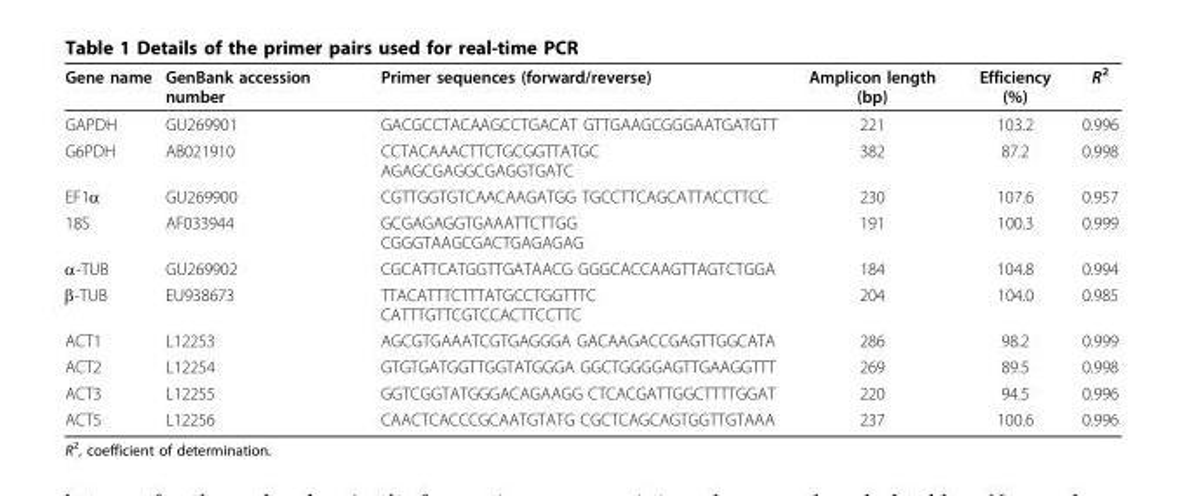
<table><thead><tr><td>Gene name</td><td>GenBank accession number</td><td>Primer sequences (forward/reverse)</td><td>Amplicon length (bp)</td><td>Efficiency (%)</td><td>R<sup>2</sup></td></tr></thead><tbody><tr><td>GAPDH</td><td>GU269901</td><td>GACGCCTACAAGCCTGACAT GTTGAAGCGGGAATGATGTT</td><td>221</td><td>103.2</td><td>0.996</td></tr><tr><td>G6PDH</td><td>AB021910</td><td>CCTACAAACTTCTGCGGTTATGC AGAGCGAGGCGAGGTGATC</td><td>382</td><td>87.2</td><td>0.998</td></tr><tr><td>EF1α</td><td>GU269900</td><td>CGTTGGTGTCAACAAGATGG TGCCTTCAGCATTACCTTCC</td><td>230</td><td>107.6</td><td>0.957</td></tr><tr><td>18S</td><td>AF033944</td><td>GCGAGAGGTGAAATTCTTGG CGGGTAAGCGACTGAGAGAG</td><td>191</td><td>100.3</td><td>0.999</td></tr><tr><td>α-TUB</td><td>GU269902</td><td>CGCATTCATGGTTGATAACG GGGCACCAAGTTAGTCTGGA</td><td>184</td><td>104.8</td><td>0.994</td></tr><tr><td>β-TUB</td><td>EU938673</td><td>TTACATTTCTTTATGCCTGGTTTC CATTTGTTCGTCCACTTCCTTC</td><td>204</td><td>104.0</td><td>0.985</td></tr><tr><td>ACT1</td><td>L12253</td><td>AGCGTGAAATCGTGAGGGA GACAAGACCGAGTTGGCATA</td><td>286</td><td>98.2</td><td>0.999</td></tr><tr><td>ACT2</td><td>L12254</td><td>GTGTGATGGTTGGTATGGGA GGCTGGGGAGTTGAAGGTTT</td><td>269</td><td>89.5</td><td>0.998</td></tr><tr><td>ACT3</td><td>L12255</td><td>GGTCGGTATGGGACAGAAGG CTCACGATTGGCTTTTGGAT</td><td>220</td><td>94.5</td><td>0.996</td></tr><tr><td>ACT5</td><td>L12256</td><td>CAACTCACCCGCAATGTATG CGCTCAGCAGTGGTTGTAAA</td><td>237</td><td>100.6</td><td>0.996</td></tr></tbody></table>